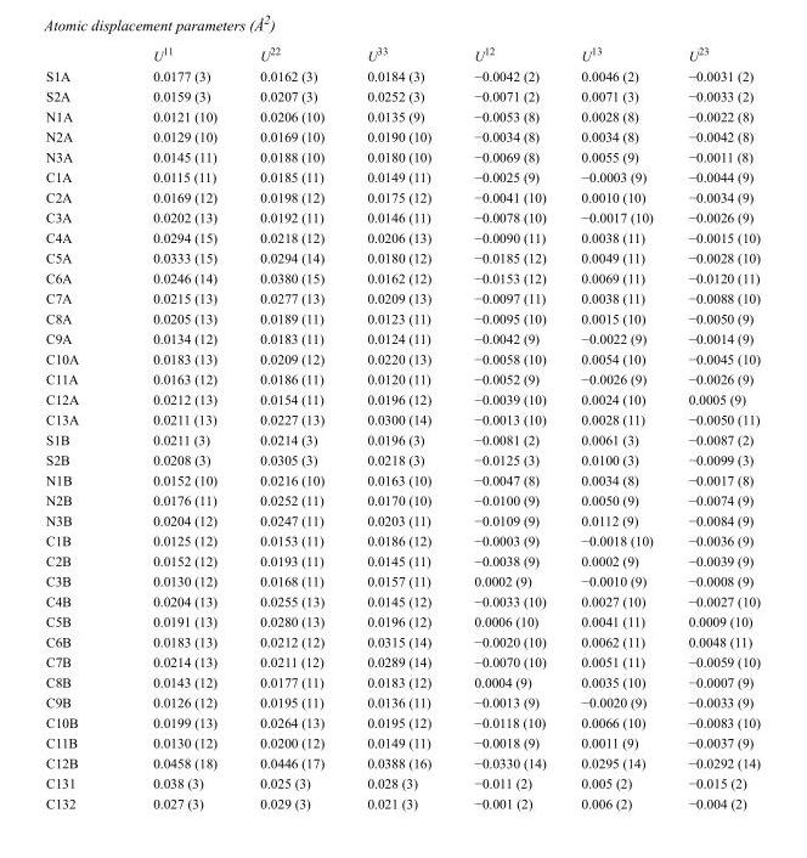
<table><thead><tr><td></td><td>U<sup>11</sup></td><td>U<sup>22</sup></td><td>U<sup>33</sup></td><td>U<sup>12</sup></td><td>U<sup>13</sup></td><td>U<sup>23</sup></td></tr></thead><tbody><tr><td>S1A</td><td>0.0177 (3)</td><td>0.0162 (3)</td><td>0.0184 (3)</td><td>−0.0042 (2)</td><td>0.0046 (2)</td><td>−0.0031 (2)</td></tr><tr><td>S2A</td><td>0.0159 (3)</td><td>0.0207 (3)</td><td>0.0252 (3)</td><td>−0.0071 (2)</td><td>0.0071 (3)</td><td>−0.0033 (2)</td></tr><tr><td>N1A</td><td>0.0121 (10)</td><td>0.0206 (10)</td><td>0.0135 (9)</td><td>−0.0053 (8)</td><td>0.0028 (8)</td><td>−0.0022 (8)</td></tr><tr><td>N2A</td><td>0.0129 (10)</td><td>0.0169 (10)</td><td>0.0190 (10)</td><td>−0.0034 (8)</td><td>0.0034 (8)</td><td>−0.0042 (8)</td></tr><tr><td>N3A</td><td>0.0145 (11)</td><td>0.0188 (10)</td><td>0.0180 (10)</td><td>−0.0069 (8)</td><td>0.0055 (9)</td><td>−0.0011 (8)</td></tr><tr><td>C1A</td><td>0.0115 (11)</td><td>0.0185 (11)</td><td>0.0149 (11)</td><td>−0.0025 (9)</td><td>−0.0003 (9)</td><td>−0.0044 (9)</td></tr><tr><td>C2A</td><td>0.0169 (12)</td><td>0.0198 (12)</td><td>0.0175 (12)</td><td>−0.0041 (10)</td><td>0.0010 (10)</td><td>−0.0034 (9)</td></tr><tr><td>C3A</td><td>0.0202 (13)</td><td>0.0192 (11)</td><td>0.0146 (11)</td><td>−0.0078 (10)</td><td>−0.0017 (10)</td><td>−0.0026 (9)</td></tr><tr><td>C4A</td><td>0.0294 (15)</td><td>0.0218 (12)</td><td>0.0206 (13)</td><td>−0.0090 (11)</td><td>0.0038 (11)</td><td>−0.0015 (10)</td></tr><tr><td>C5A</td><td>0.0333 (15)</td><td>0.0294 (14)</td><td>0.0180 (12)</td><td>−0.0185 (12)</td><td>0.0049 (11)</td><td>−0.0028 (10)</td></tr><tr><td>C6A</td><td>0.0246 (14)</td><td>0.0380 (15)</td><td>0.0162 (12)</td><td>−0.0153 (12)</td><td>0.0069 (11)</td><td>−0.0120 (11)</td></tr><tr><td>C7A</td><td>0.0215 (13)</td><td>0.0277 (13)</td><td>0.0209 (13)</td><td>−0.0097 (11)</td><td>0.0038 (11)</td><td>−0.0088 (10)</td></tr><tr><td>C8A</td><td>0.0205 (13)</td><td>0.0189 (11)</td><td>0.0123 (11)</td><td>−0.0095 (10)</td><td>0.0015 (10)</td><td>−0.0050 (9)</td></tr><tr><td>C9A</td><td>0.0134 (12)</td><td>0.0183 (11)</td><td>0.0124 (11)</td><td>−0.0042 (9)</td><td>−0.0022 (9)</td><td>−0.0014 (9)</td></tr><tr><td>C10A</td><td>0.0183 (13)</td><td>0.0209 (12)</td><td>0.0220 (13)</td><td>−0.0058 (10)</td><td>0.0054 (10)</td><td>−0.0045 (10)</td></tr><tr><td>C11A</td><td>0.0163 (12)</td><td>0.0186 (11)</td><td>0.0120 (11)</td><td>−0.0052 (9)</td><td>−0.0026 (9)</td><td>−0.0026 (9)</td></tr><tr><td>C12A</td><td>0.0212 (13)</td><td>0.0154 (11)</td><td>0.0196 (12)</td><td>−0.0039 (10)</td><td>0.0024 (10)</td><td>0.0005 (9)</td></tr><tr><td>C13A</td><td>0.0211 (13)</td><td>0.0227 (13)</td><td>0.0300 (14)</td><td>−0.0013 (10)</td><td>0.0028 (11)</td><td>−0.0050 (11)</td></tr><tr><td>S1B</td><td>0.0211 (3)</td><td>0.0214 (3)</td><td>0.0196 (3)</td><td>−0.0081 (2)</td><td>0.0061 (3)</td><td>−0.0087 (2)</td></tr><tr><td>S2B</td><td>0.0208 (3)</td><td>0.0305 (3)</td><td>0.0218 (3)</td><td>−0.0125 (3)</td><td>0.0100 (3)</td><td>−0.0099 (3)</td></tr><tr><td>N1B</td><td>0.0152 (10)</td><td>0.0216 (10)</td><td>0.0163 (10)</td><td>−0.0047 (8)</td><td>0.0034 (8)</td><td>−0.0017 (8)</td></tr><tr><td>N2B</td><td>0.0176 (11)</td><td>0.0252 (11)</td><td>0.0170 (10)</td><td>−0.0100 (9)</td><td>0.0050 (9)</td><td>−0.0074 (9)</td></tr><tr><td>N3B</td><td>0.0204 (12)</td><td>0.0247 (11)</td><td>0.0203 (11)</td><td>−0.0109 (9)</td><td>0.0112 (9)</td><td>−0.0084 (9)</td></tr><tr><td>C1B</td><td>0.0125 (12)</td><td>0.0153 (11)</td><td>0.0186 (12)</td><td>−0.0003 (9)</td><td>−0.0018 (10)</td><td>−0.0036 (9)</td></tr><tr><td>C2B</td><td>0.0152 (12)</td><td>0.0193 (11)</td><td>0.0145 (11)</td><td>−0.0038 (9)</td><td>0.0002 (9)</td><td>−0.0039 (9)</td></tr><tr><td>C3B</td><td>0.0130 (12)</td><td>0.0168 (11)</td><td>0.0157 (11)</td><td>0.0002 (9)</td><td>−0.0010 (9)</td><td>−0.0008 (9)</td></tr><tr><td>C4B</td><td>0.0204 (13)</td><td>0.0255 (13)</td><td>0.0145 (12)</td><td>−0.0033 (10)</td><td>0.0027 (10)</td><td>−0.0027 (10)</td></tr><tr><td>C5B</td><td>0.0191 (13)</td><td>0.0280 (13)</td><td>0.0196 (12)</td><td>0.0006 (10)</td><td>0.0041 (11)</td><td>0.0009 (10)</td></tr><tr><td>C6B</td><td>0.0183 (13)</td><td>0.0212 (12)</td><td>0.0315 (14)</td><td>−0.0020 (10)</td><td>0.0062 (11)</td><td>0.0048 (11)</td></tr><tr><td>C7B</td><td>0.0214 (13)</td><td>0.0211 (12)</td><td>0.0289 (14)</td><td>−0.0070 (10)</td><td>0.0051 (11)</td><td>−0.0059 (10)</td></tr><tr><td>C8B</td><td>0.0143 (12)</td><td>0.0177 (11)</td><td>0.0183 (12)</td><td>0.0004 (9)</td><td>0.0035 (10)</td><td>−0.0007 (9)</td></tr><tr><td>C9B</td><td>0.0126 (12)</td><td>0.0195 (11)</td><td>0.0136 (11)</td><td>−0.0013 (9)</td><td>−0.0020 (9)</td><td>−0.0033 (9)</td></tr><tr><td>C10B</td><td>0.0199 (13)</td><td>0.0264 (13)</td><td>0.0195 (12)</td><td>−0.0118 (10)</td><td>0.0066 (10)</td><td>−0.0083 (10)</td></tr><tr><td>C11B</td><td>0.0130 (12)</td><td>0.0200 (12)</td><td>0.0149 (11)</td><td>−0.0018 (9)</td><td>0.0011 (9)</td><td>−0.0037 (9)</td></tr><tr><td>C12B</td><td>0.0458 (18)</td><td>0.0446 (17)</td><td>0.0388 (16)</td><td>−0.0330 (14)</td><td>0.0295 (14)</td><td>−0.0292 (14)</td></tr><tr><td>C131</td><td>0.038 (3)</td><td>0.025 (3)</td><td>0.028 (3)</td><td>−0.011 (2)</td><td>0.005 (2)</td><td>−0.015 (2)</td></tr><tr><td>C132</td><td>0.027 (3)</td><td>0.029 (3)</td><td>0.021 (3)</td><td>−0.001 (2)</td><td>0.006 (2)</td><td>−0.004 (2)</td></tr></tbody></table>